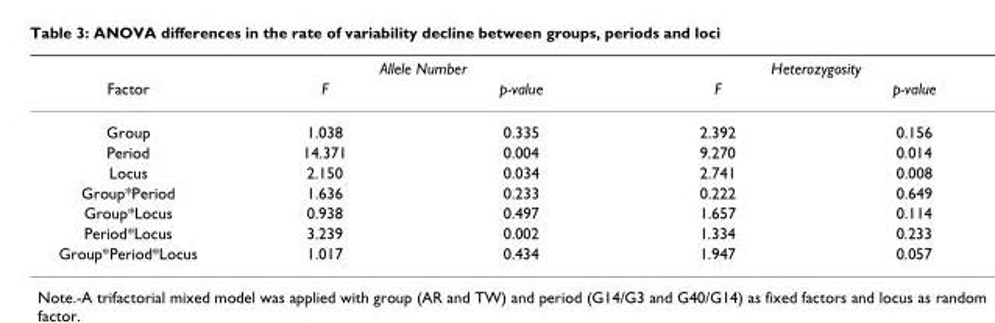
<table><thead><tr><td rowspan="2">Factor</td><td colspan="2">Allele Number</td><td colspan="2">Heterozygosity</td></tr><tr><td>F</td><td>p-value</td><td>F</td><td>p-value</td></tr></thead><tbody><tr><td>Group</td><td>1.038</td><td>0.335</td><td>2.392</td><td>0.156</td></tr><tr><td>Period</td><td>14.371</td><td>0.004</td><td>9.270</td><td>0.014</td></tr><tr><td>Locus</td><td>2.150</td><td>0.034</td><td>2.741</td><td>0.008</td></tr><tr><td>Group*Period</td><td>1.636</td><td>0.233</td><td>0.222</td><td>0.649</td></tr><tr><td>Group*Locus</td><td>0.938</td><td>0.497</td><td>1.657</td><td>0.114</td></tr><tr><td>Period*Locus</td><td>3.239</td><td>0.002</td><td>1.334</td><td>0.233</td></tr><tr><td>Group*Period*Locus</td><td>1.017</td><td>0.434</td><td>1.947</td><td>0.057</td></tr></tbody></table>